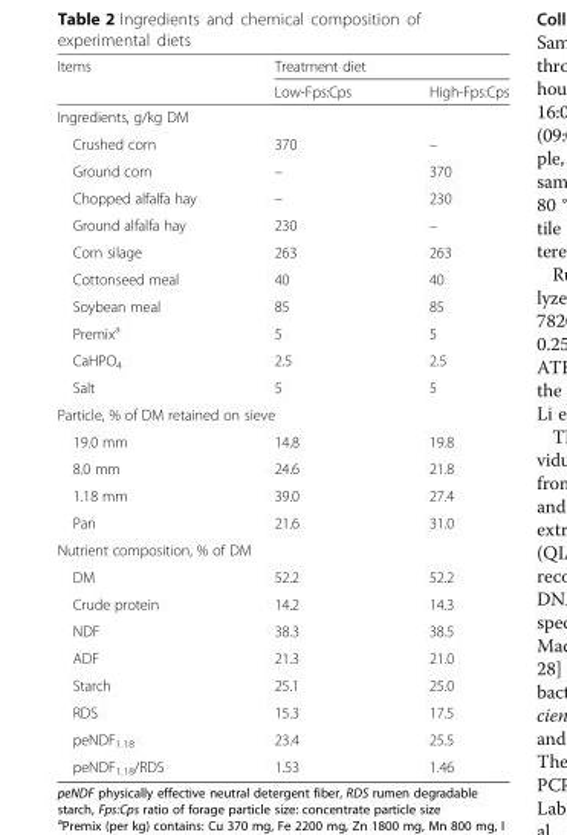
<table><thead><tr><td rowspan="2">Items</td><td colspan="2">Treatment diet</td></tr><tr><td>Low-Fps:Cps</td><td>High-Fps:Cps</td></tr></thead><tbody><tr><td colspan="3">Ingredients, g/kg DM</td></tr><tr><td>Crushed corn</td><td>370</td><td>–</td></tr><tr><td>Ground corn</td><td>–</td><td>370</td></tr><tr><td>Chopped alfalfa hay</td><td>–</td><td>230</td></tr><tr><td>Ground alfalfa hay</td><td>230</td><td>–</td></tr><tr><td>Corn silage</td><td>263</td><td>263</td></tr><tr><td>Cottonseed meal</td><td>40</td><td>40</td></tr><tr><td>Soybean meal</td><td>85</td><td>85</td></tr><tr><td>Premix<sup>a</sup></td><td>5</td><td>5</td></tr><tr><td>CaHPO<sub>4</sub></td><td>2.5</td><td>2.5</td></tr><tr><td>Salt</td><td>5</td><td>5</td></tr><tr><td colspan="3">Particle, % of DM retained on sieve</td></tr><tr><td>19.0 mm</td><td>14.8</td><td>19.8</td></tr><tr><td>8.0 mm</td><td>24.6</td><td>21.8</td></tr><tr><td>1.18 mm</td><td>39.0</td><td>27.4</td></tr><tr><td>Pan</td><td>21.6</td><td>31.0</td></tr><tr><td colspan="3">Nutrient composition, % of DM</td></tr><tr><td>DM</td><td>52.2</td><td>52.2</td></tr><tr><td>Crude protein</td><td>14.2</td><td>14.3</td></tr><tr><td>NDF</td><td>38.3</td><td>38.5</td></tr><tr><td>ADF</td><td>21.3</td><td>21.0</td></tr><tr><td>Starch</td><td>25.1</td><td>25.0</td></tr><tr><td>RDS</td><td>15.3</td><td>17.5</td></tr><tr><td>peNDF<sub>1.18</sub></td><td>23.4</td><td>25.5</td></tr><tr><td>peNDF<sub>1.18</sub>/RDS</td><td>1.53</td><td>1.46</td></tr></tbody></table>